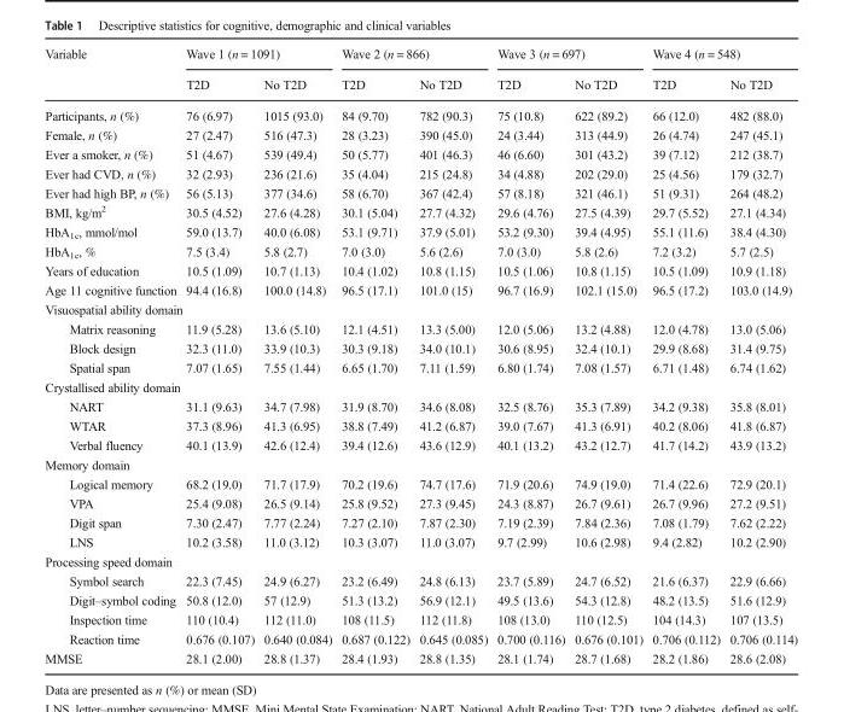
<table><thead><tr><td rowspan="2">Variable</td><td colspan="2">Wave 1 (n = 1091)</td><td colspan="2">Wave 2 (n = 866)</td><td colspan="2">Wave 3 (n = 697)</td><td colspan="2">Wave 4 (n = 548)</td></tr><tr><td>T2D</td><td>No T2D</td><td>T2D</td><td>No T2D</td><td>T2D</td><td>No T2D</td><td>T2D</td><td>No T2D</td></tr></thead><tbody><tr><td>Participants, n (%)</td><td>76 (6.97)</td><td>1015 (93.0)</td><td>84 (9.70)</td><td>782 (90.3)</td><td>75 (10.8)</td><td>622 (89.2)</td><td>66 (12.0)</td><td>482 (88.0)</td></tr><tr><td>Female, n (%)</td><td>27 (2.47)</td><td>516 (47.3)</td><td>28 (3.23)</td><td>390 (45.0)</td><td>24 (3.44)</td><td>313 (44.9)</td><td>26 (4.74)</td><td>247 (45.1)</td></tr><tr><td>Ever a smoker, n (%)</td><td>51 (4.67)</td><td>539 (49.4)</td><td>50 (5.77)</td><td>401 (46.3)</td><td>46 (6.60)</td><td>301 (43.2)</td><td>39 (7.12)</td><td>212 (38.7)</td></tr><tr><td>Ever had CVD, n (%)</td><td>32 (2.93)</td><td>236 (21.6)</td><td>35 (4.04)</td><td>215 (24.8)</td><td>34 (4.88)</td><td>202 (29.0)</td><td>25 (4.56)</td><td>179 (32.7)</td></tr><tr><td>Ever had high BP, n (%)</td><td>56 (5.13)</td><td>377 (34.6)</td><td>58 (6.70)</td><td>367 (42.4)</td><td>57 (8.18)</td><td>321 (46.1)</td><td>51 (9.31)</td><td>264 (48.2)</td></tr><tr><td>BMI, kg/m<sup>2</sup></td><td>30.5 (4.52)</td><td>27.6 (4.28)</td><td>30.1 (5.04)</td><td>27.7 (4.32)</td><td>29.6 (4.76)</td><td>27.5 (4.39)</td><td>29.7 (5.52)</td><td>27.1 (4.34)</td></tr><tr><td>HbA<sub>1c</sub>, mmol/mol</td><td>59.0 (13.7)</td><td>40.0 (6.08)</td><td>53.1 (9.71)</td><td>37.9 (5.01)</td><td>53.2 (9.30)</td><td>39.4 (4.95)</td><td>55.1 (11.6)</td><td>38.4 (4.30)</td></tr><tr><td>HbA<sub>1c</sub>, %</td><td>7.5 (3.4)</td><td>5.8 (2.7)</td><td>7.0 (3.0)</td><td>5.6 (2.6)</td><td>7.0 (3.0)</td><td>5.8 (2.6)</td><td>7.2 (3.2)</td><td>5.7 (2.5)</td></tr><tr><td>Years of education</td><td>10.5 (1.09)</td><td>10.7 (1.13)</td><td>10.4 (1.02)</td><td>10.8 (1.15)</td><td>10.5 (1.06)</td><td>10.8 (1.15)</td><td>10.5 (1.09)</td><td>10.9 (1.18)</td></tr><tr><td>Age 11 cognitive function</td><td>94.4 (16.8)</td><td>100.0 (14.8)</td><td>96.5 (17.1)</td><td>101.0 (15)</td><td>96.7 (16.9)</td><td>102.1 (15.0)</td><td>96.5 (17.2)</td><td>103.0 (14.9)</td></tr><tr><td colspan="9">Visuospatial ability domain</td></tr><tr><td>Matrix reasoning</td><td>11.9 (5.28)</td><td>13.6 (5.10)</td><td>12.1 (4.51)</td><td>13.3 (5.00)</td><td>12.0 (5.06)</td><td>13.2 (4.88)</td><td>12.0 (4.78)</td><td>13.0 (5.06)</td></tr><tr><td>Block design</td><td>32.3 (11.0)</td><td>33.9 (10.3)</td><td>30.3 (9.18)</td><td>34.0 (10.1)</td><td>30.6 (8.95)</td><td>32.4 (10.1)</td><td>29.9 (8.68)</td><td>31.4 (9.75)</td></tr><tr><td>Spatial span</td><td>7.07 (1.65)</td><td>7.55 (1.44)</td><td>6.65 (1.70)</td><td>7.11 (1.59)</td><td>6.80 (1.74)</td><td>7.08 (1.57)</td><td>6.71 (1.48)</td><td>6.74 (1.62)</td></tr><tr><td colspan="9">Crystallised ability domain</td></tr><tr><td>NART</td><td>31.1 (9.63)</td><td>34.7 (7.98)</td><td>31.9 (8.70)</td><td>34.6 (8.08)</td><td>32.5 (8.76)</td><td>35.3 (7.89)</td><td>34.2 (9.38)</td><td>35.8 (8.01)</td></tr><tr><td>WTAR</td><td>37.3 (8.96)</td><td>41.3 (6.95)</td><td>38.8 (7.49)</td><td>41.2 (6.87)</td><td>39.0 (7.67)</td><td>41.3 (6.91)</td><td>40.2 (8.06)</td><td>41.8 (6.87)</td></tr><tr><td>Verbal fluency</td><td>40.1 (13.9)</td><td>42.6 (12.4)</td><td>39.4 (12.6)</td><td>43.6 (12.9)</td><td>40.1 (13.2)</td><td>43.2 (12.7)</td><td>41.7 (14.2)</td><td>43.9 (13.2)</td></tr><tr><td colspan="9">Memory domain</td></tr><tr><td>Logical memory</td><td>68.2 (19.0)</td><td>71.7 (17.9)</td><td>70.2 (19.6)</td><td>74.7 (17.6)</td><td>71.9 (20.6)</td><td>74.9 (19.0)</td><td>71.4 (22.6)</td><td>72.9 (20.1)</td></tr><tr><td>VPA</td><td>25.4 (9.08)</td><td>26.5 (9.14)</td><td>25.8 (9.52)</td><td>27.3 (9.45)</td><td>24.3 (8.87)</td><td>26.7 (9.61)</td><td>26.7 (9.96)</td><td>27.2 (9.51)</td></tr><tr><td>Digit span</td><td>7.30 (2.47)</td><td>7.77 (2.24)</td><td>7.27 (2.10)</td><td>7.87 (2.30)</td><td>7.19 (2.39)</td><td>7.84 (2.36)</td><td>7.08 (1.79)</td><td>7.62 (2.22)</td></tr><tr><td>LNS</td><td>10.2 (3.58)</td><td>11.0 (3.12)</td><td>10.3 (3.07)</td><td>11.0 (3.07)</td><td>9.7 (2.99)</td><td>10.6 (2.98)</td><td>9.4 (2.82)</td><td>10.2 (2.90)</td></tr><tr><td colspan="9">Processing speed domain</td></tr><tr><td>Symbol search</td><td>22.3 (7.45)</td><td>24.9 (6.27)</td><td>23.2 (6.49)</td><td>24.8 (6.13)</td><td>23.7 (5.89)</td><td>24.7 (6.52)</td><td>21.6 (6.37)</td><td>22.9 (6.66)</td></tr><tr><td>Digit–symbol coding</td><td>50.8 (12.0)</td><td>57 (12.9)</td><td>51.3 (13.2)</td><td>56.9 (12.1)</td><td>49.5 (13.6)</td><td>54.3 (12.8)</td><td>48.2 (13.5)</td><td>51.6 (12.9)</td></tr><tr><td>Inspection time</td><td>110 (10.4)</td><td>112 (11.0)</td><td>108 (11.5)</td><td>112 (11.8)</td><td>108 (13.0)</td><td>110 (12.5)</td><td>104 (14.3)</td><td>107 (13.5)</td></tr><tr><td>Reaction time</td><td>0.676 (0.107)</td><td>0.640 (0.084)</td><td>0.687 (0.122)</td><td>0.645 (0.085)</td><td>0.700 (0.116)</td><td>0.676 (0.101)</td><td>0.706 (0.112)</td><td>0.706 (0.114)</td></tr><tr><td>MMSE</td><td>28.1 (2.00)</td><td>28.8 (1.37)</td><td>28.4 (1.93)</td><td>28.8 (1.35)</td><td>28.1 (1.74)</td><td>28.7 (1.68)</td><td>28.2 (1.86)</td><td>28.6 (2.08)</td></tr></tbody></table>